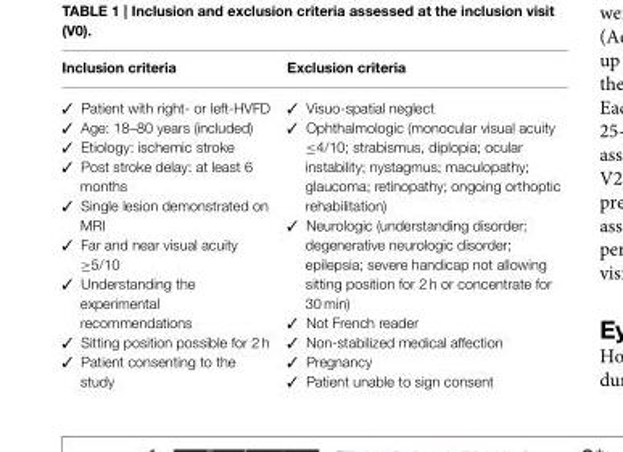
<table><thead><tr><td>Inclusion criteria</td><td>Exclusion criteria</td></tr></thead><tbody><tr><td>Patient with right- or left-HVFD Age: 18–80 years (included) Etiology: ischemic stroke Post stroke delay: at least 6 months Single lesion demonstrated on MRI Far and near visual acuity ≥5/10 Understanding the experimental recommendations Sitting position possible for 2 h Patient consenting to the study</td><td>Visuo-spatial neglect Ophthalmologic (monocular visual acuity ≤4/10; strabismus, diplopia; ocular instability; nystagmus; maculopathy; glaucoma; retinopathy; ongoing orthoptic rehabilitation) Neurologic (understanding disorder; degenerative neurologic disorder; epilepsia; severe handicap not allowing sitting position for 2 h or concentrate for 30 min) Not French reader Non-stabilized medical affection Pregnancy Patient unable to sign consent</td></tr></tbody></table>